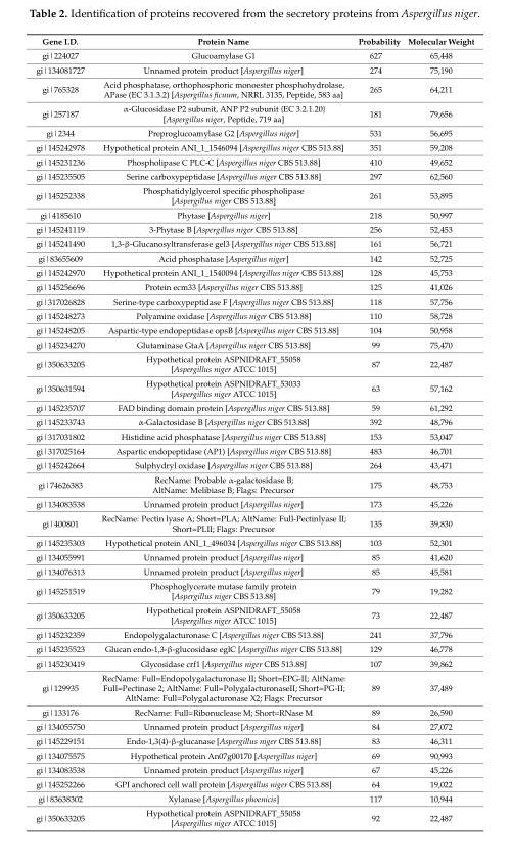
<table><thead><tr><td>Gene I.D.</td><td>Protein Name</td><td>Probability</td><td>Molecular Weight</td></tr></thead><tbody><tr><td>gi|224027</td><td>Glucoamylase G1</td><td>627</td><td>65,448</td></tr><tr><td>gi|134081727</td><td>Unnamed protein product [Aspergillus niger]</td><td>274</td><td>75,190</td></tr><tr><td>gi|765328</td><td>Acid phosphatase, orthophosphoric monoester phosphohydrolase, APase (EC 3.1.3.2) [Aspergillus ficuum, NRRL 3135, Peptide, 583 aa]</td><td>265</td><td>64,211</td></tr><tr><td>gi|257187</td><td>α-Glucosidase P2 subunit, ANP P2 subunit {EC 3.2.1.20} [Aspergillus niger, Peptide, 719 aa]</td><td>181</td><td>79,656</td></tr><tr><td>gi|2344</td><td>Preproglucoamylase G2 [Aspergillus niger]</td><td>531</td><td>56,695</td></tr><tr><td>gi|145242978</td><td>Hypothetical protein ANI_1_1546094 [Aspergillus niger CBS 513.88]</td><td>351</td><td>59,208</td></tr><tr><td>gi|145231236</td><td>Phospholipase C PLC-C [Aspergillus niger CBS 513.88]</td><td>410</td><td>49,652</td></tr><tr><td>gi|145235505</td><td>Serine carboxypeptidase [Aspergillus niger CBS 513.88]</td><td>297</td><td>62,560</td></tr><tr><td>gi|145252338</td><td>Phosphatidylglycerol specific phospholipase [Aspergillus niger CBS 513.88]</td><td>261</td><td>53,895</td></tr><tr><td>gi|4185610</td><td>Phytase [Aspergillus niger]</td><td>218</td><td>50,997</td></tr><tr><td>gi|145241119</td><td>3-Phytase B [Aspergillus niger CBS 513.88]</td><td>256</td><td>52,453</td></tr><tr><td>gi|145241490</td><td>1,3-β-Glucanosyltransferase gel3 [Aspergillus niger CBS 513.88]</td><td>161</td><td>56,721</td></tr><tr><td>gi|83655609</td><td>Acid phosphatase [Aspergillus niger]</td><td>142</td><td>52,725</td></tr><tr><td>gi|145242970</td><td>Hypothetical protein ANI_1_1540094 [Aspergillus niger CBS 513.88]</td><td>128</td><td>45,753</td></tr><tr><td>gi|145256696</td><td>Protein ecm33 [Aspergillus niger CBS 513.88]</td><td>125</td><td>41,026</td></tr><tr><td>gi|317026828</td><td>Serine-type carboxypeptidase F [Aspergillus niger CBS 513.88]</td><td>118</td><td>57,756</td></tr><tr><td>gi|145248273</td><td>Polyamine oxidase [Aspergillus niger CBS 513.88]</td><td>110</td><td>58,728</td></tr><tr><td>gi|145248205</td><td>Aspartic-type endopeptidase opsB [Aspergillus niger CBS 513.88]</td><td>104</td><td>50,958</td></tr><tr><td>gi|145234270</td><td>Glutaminase GtaA [Aspergillus niger CBS 513.88]</td><td>99</td><td>75,470</td></tr><tr><td>gi|350633205</td><td>Hypothetical protein ASPNIDRAFT_55058 [Aspergillus niger ATCC 1015]</td><td>87</td><td>22,487</td></tr><tr><td>gi|350631594</td><td>Hypothetical protein ASPNIDRAFT_53033 [Aspergillus niger ATCC 1015]</td><td>63</td><td>57,162</td></tr><tr><td>gi|145235707</td><td>FAD binding domain protein [Aspergillus niger CBS 513.88]</td><td>59</td><td>61,292</td></tr><tr><td>gi|145233743</td><td>α-Galactosidase B [Aspergillus niger CBS 513.88]</td><td>392</td><td>48,796</td></tr><tr><td>gi|317031802</td><td>Histidine acid phosphatase [Aspergillus niger CBS 513.88]</td><td>153</td><td>53,047</td></tr><tr><td>gi|317025164</td><td>Aspartic endopeptidase (AP1) [Aspergillus niger CBS 513.88]</td><td>483</td><td>46,701</td></tr><tr><td>gi|145242664</td><td>Sulphydryl oxidase [Aspergillus niger CBS 513.88]</td><td>264</td><td>43,471</td></tr><tr><td>gi|74626383</td><td>RecName: Probable α-galactosidase B; AltName: Melibiase B; Flags: Precursor</td><td>175</td><td>48,753</td></tr><tr><td>gi|134083538</td><td>Unnamed protein product [Aspergillus niger]</td><td>173</td><td>45,226</td></tr><tr><td>gi|400801</td><td>RecName: Pectin lyase A; Short=PLA; AltName: Full-Pectinlyase II; Short=PLII; Flags: Precursor</td><td>135</td><td>39,830</td></tr><tr><td>gi|145235303</td><td>Hypothetical protein ANI_1_496034 [Aspergillus niger CBS 513.88]</td><td>103</td><td>52,301</td></tr><tr><td>gi|134055991</td><td>Unnamed protein product [Aspergillus niger]</td><td>85</td><td>41,620</td></tr><tr><td>gi|134076313</td><td>Unnamed protein product [Aspergillus niger]</td><td>85</td><td>45,581</td></tr><tr><td>gi|145251519</td><td>Phosphoglycerate mutase family protein [Aspergillus niger CBS 513.88]</td><td>79</td><td>19,282</td></tr><tr><td>gi|350633205</td><td>Hypothetical protein ASPNIDRAFT_55058 [Aspergillus niger ATCC 1015]</td><td>73</td><td>22,487</td></tr><tr><td>gi|145232359</td><td>Endopolygalacturonase C [Aspergillus niger CBS 513.88]</td><td>241</td><td>37,796</td></tr><tr><td>gi|145235523</td><td>Glucan endo-1,3-β-glucosidase eglC [Aspergillus niger CBS 513.88]</td><td>129</td><td>46,778</td></tr><tr><td>gi|145230419</td><td>Glycosidase crf1 [Aspergillus niger CBS 513.88]</td><td>107</td><td>39,862</td></tr><tr><td>gi|129935</td><td>RecName: Full=Endopolygalacturonase II; Short=EPG-II; AltName: Full=Pectinase 2; AltName: Full=PolygalacturonaseII; Short=PG-II; AltName: Full=Polygalacturonase X2; Flags: Precursor</td><td>89</td><td>37,489</td></tr><tr><td>gi|133176</td><td>RecName: Full=Ribonuclease M; Short=RNase M</td><td>89</td><td>26,590</td></tr><tr><td>gi|134055750</td><td>Unnamed protein product [Aspergillus niger]</td><td>84</td><td>27,072</td></tr><tr><td>gi|145229151</td><td>Endo-1,3(4)-β-glucanase [Aspergillus niger CBS 513.88]</td><td>83</td><td>46,311</td></tr><tr><td>gi|134075575</td><td>Hypothetical protein An07g00170 [Aspergillus niger]</td><td>69</td><td>90,993</td></tr><tr><td>gi|134083538</td><td>Unnamed protein product [Aspergillus niger]</td><td>67</td><td>45,226</td></tr><tr><td>gi|145252266</td><td>GPI anchored cell wall protein [Aspergillus niger CBS 513.88]</td><td>64</td><td>19,022</td></tr><tr><td>gi|83638302</td><td>Xylanase [Aspergillus phoenicis]</td><td>117</td><td>10,944</td></tr><tr><td>gi|350633205</td><td>Hypothetical protein ASPNIDRAFT_55058 [Aspergillus niger ATCC 1015]</td><td>92</td><td>22,487</td></tr></tbody></table>